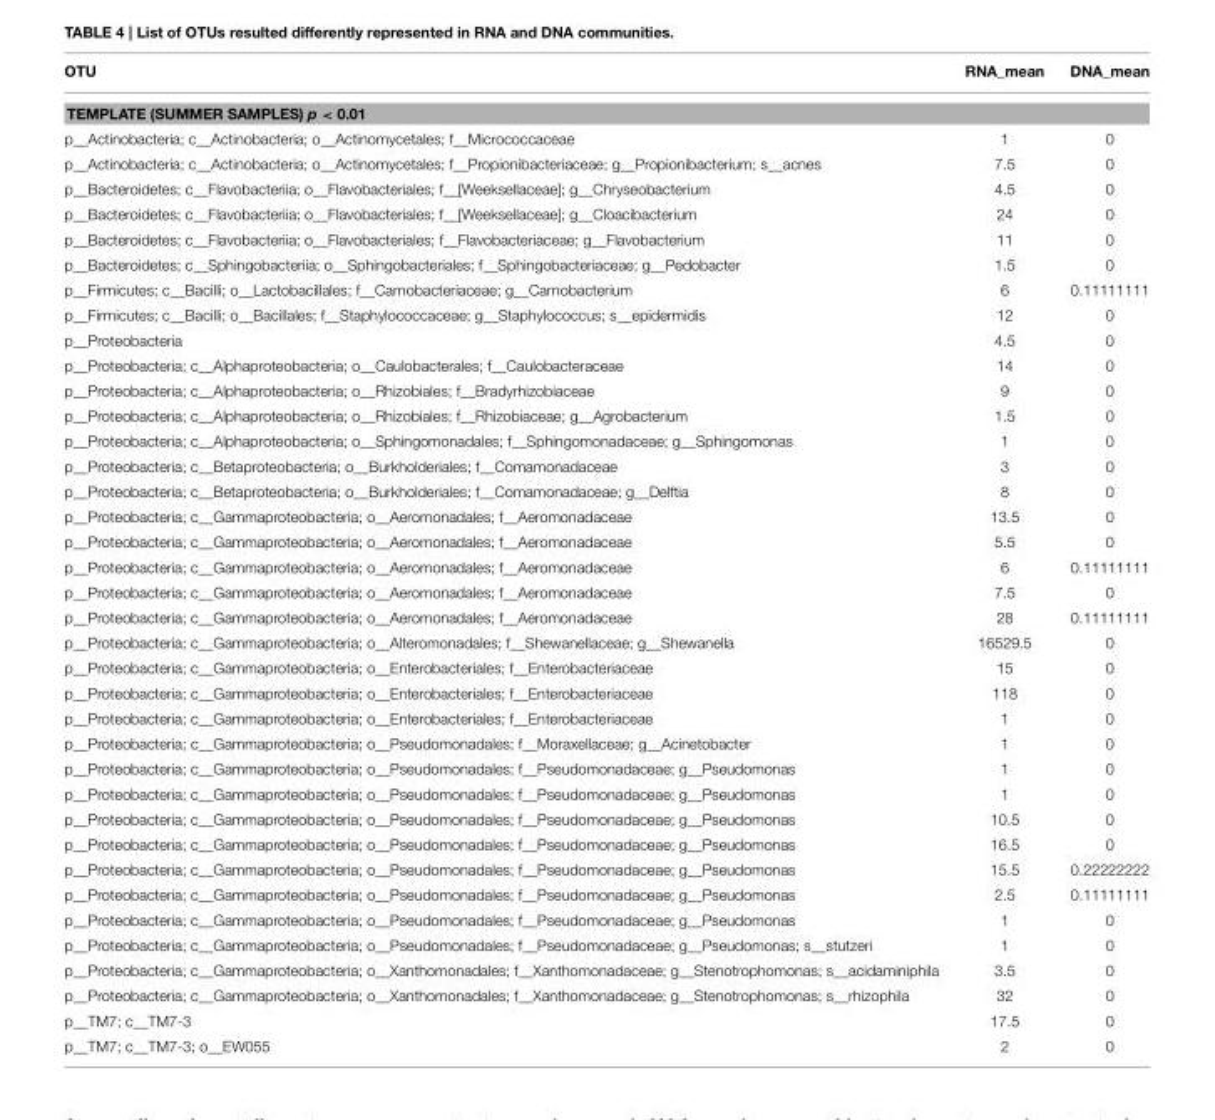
<table><thead><tr><td>OTU</td><td>RNA_mean</td><td>DNA_mean</td></tr></thead><tbody><tr><td colspan="3">TEMPLATE (SUMMER SAMPLES) p &lt; 0.01</td></tr><tr><td>p__Actinobacteria; c__Actinobacteria; o__Actinomycetales; f__Micrococcaceae</td><td>1</td><td>0</td></tr><tr><td>p__Actinobacteria; c__Actinobacteria; o__Actinomycetales; f__Propionibacteriaceae; g__Propionibacterium; s__acnes</td><td>7.5</td><td>0</td></tr><tr><td>p__Bacteroidetes; c__Flavobacteriia; o__Flavobacteriales; f__[Weeksellaceae]; g__Chryseobacterium</td><td>4.5</td><td>0</td></tr><tr><td>p__Bacteroidetes; c__Flavobacteriia; o__Flavobacteriales; f__[Weeksellaceae]; g__Cloacibacterium</td><td>24</td><td>0</td></tr><tr><td>p__Bacteroidetes; c__Flavobacteriia; o__Flavobacteriales; f__Flavobacteriaceae; g__Flavobacterium</td><td>11</td><td>0</td></tr><tr><td>p__Bacteroidetes; c__Sphingobacteriia; o__Sphingobacteriales; f__Sphingobacteriaceae; g__Pedobacter</td><td>1.5</td><td>0</td></tr><tr><td>p__Firmicutes; c__Bacilli; o__Lactobacillales; f__Carnobacteriaceae; g__Carnobacterium</td><td>6</td><td>0.11111111</td></tr><tr><td>p__Firmicutes; c__Bacilli; o__Bacillales; f__Staphylococcaceae; g__Staphylococcus; s__epidermidis</td><td>12</td><td>0</td></tr><tr><td>p__Proteobacteria</td><td>4.5</td><td>0</td></tr><tr><td>p__Proteobacteria; c__Alphaproteobacteria; o__Caulobacterales; f__Caulobacteraceae</td><td>14</td><td>0</td></tr><tr><td>p__Proteobacteria; c__Alphaproteobacteria; o__Rhizobiales; f__Bradyrhizobiaceae</td><td>9</td><td>0</td></tr><tr><td>p__Proteobacteria; c__Alphaproteobacteria; o__Rhizobiales; f__Rhizobiaceae; g__Agrobacterium</td><td>1.5</td><td>0</td></tr><tr><td>p__Proteobacteria; c__Alphaproteobacteria; o__Sphingomonadales; f__Sphingomonadaceae; g__Sphingomonas</td><td>1</td><td>0</td></tr><tr><td>p__Proteobacteria; c__Betaproteobacteria; o__Burkholderiales; f__Comamonadaceae</td><td>3</td><td>0</td></tr><tr><td>p__Proteobacteria; c__Betaproteobacteria; o__Burkholderiales; f__Comamonadaceae; g__Delftia</td><td>8</td><td>0</td></tr><tr><td>p__Proteobacteria; c__Gammaproteobacteria; o__Aeromonadales; f__Aeromonadaceae</td><td>13.5</td><td>0</td></tr><tr><td>p__Proteobacteria; c__Gammaproteobacteria; o__Aeromonadales; f__Aeromonadaceae</td><td>5.5</td><td>0</td></tr><tr><td>p__Proteobacteria; c__Gammaproteobacteria; o__Aeromonadales; f__Aeromonadaceae</td><td>6</td><td>0.11111111</td></tr><tr><td>p__Proteobacteria; c__Gammaproteobacteria; o__Aeromonadales; f__Aeromonadaceae</td><td>7.5</td><td>0</td></tr><tr><td>p__Proteobacteria; c__Gammaproteobacteria; o__Aeromonadales; f__Aeromonadaceae</td><td>28</td><td>0.11111111</td></tr><tr><td>p__Proteobacteria; c__Gammaproteobacteria; o__Alteromonadales; f__Shewanellaceae; g__Shewanella</td><td>16529.5</td><td>0</td></tr><tr><td>p__Proteobacteria; c__Gammaproteobacteria; o__Enterobacteriales; f__Enterobacteriaceae</td><td>15</td><td>0</td></tr><tr><td>p__Proteobacteria; c__Gammaproteobacteria; o__Enterobacteriales; f__Enterobacteriaceae</td><td>118</td><td>0</td></tr><tr><td>p__Proteobacteria; c__Gammaproteobacteria; o__Enterobacteriales; f__Enterobacteriaceae</td><td>1</td><td>0</td></tr><tr><td>p__Proteobacteria; c__Gammaproteobacteria; o__Pseudomonadales; f__Moraxellaceae; g__Acinetobacter</td><td>1</td><td>0</td></tr><tr><td>p__Proteobacteria; c__Gammaproteobacteria; o__Pseudomonadales; f__Pseudomonadaceae; g__Pseudomonas</td><td>1</td><td>0</td></tr><tr><td>p__Proteobacteria; c__Gammaproteobacteria; o__Pseudomonadales; f__Pseudomonadaceae; g__Pseudomonas</td><td>1</td><td>0</td></tr><tr><td>p__Proteobacteria; c__Gammaproteobacteria; o__Pseudomonadales; f__Pseudomonadaceae; g__Pseudomonas</td><td>10.5</td><td>0</td></tr><tr><td>p__Proteobacteria; c__Gammaproteobacteria; o__Pseudomonadales; f__Pseudomonadaceae; g__Pseudomonas</td><td>16.5</td><td>0</td></tr><tr><td>p__Proteobacteria; c__Gammaproteobacteria; o__Pseudomonadales; f__Pseudomonadaceae; g__Pseudomonas</td><td>15.5</td><td>0.22222222</td></tr><tr><td>p__Proteobacteria; c__Gammaproteobacteria; o__Pseudomonadales; f__Pseudomonadaceae; g__Pseudomonas</td><td>2.5</td><td>0.11111111</td></tr><tr><td>p__Proteobacteria; c__Gammaproteobacteria; o__Pseudomonadales; f__Pseudomonadaceae; g__Pseudomonas</td><td>1</td><td>0</td></tr><tr><td>p__Proteobacteria; c__Gammaproteobacteria; o__Pseudomonadales; f__Pseudomonadaceae; g__Pseudomonas; s__stutzeri</td><td>1</td><td>0</td></tr><tr><td>p__Proteobacteria; c__Gammaproteobacteria; o__Xanthomonadales; f__Xanthomonadaceae; g__Stenotrophomonas; s__acidaminiphila</td><td>3.5</td><td>0</td></tr><tr><td>p__Proteobacteria; c__Gammaproteobacteria; o__Xanthomonadales; f__Xanthomonadaceae; g__Stenotrophomonas; s__rhizophila</td><td>32</td><td>0</td></tr><tr><td>p__TM7; c__TM7-3</td><td>17.5</td><td>0</td></tr><tr><td>p__TM7; c__TM7-3; o__EW055</td><td>2</td><td>0</td></tr></tbody></table>